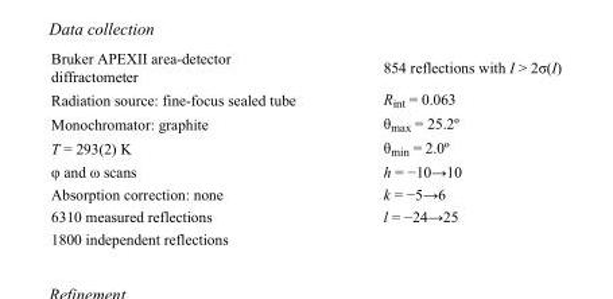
<table><tbody><tr><td>Bruker APEXII area-detector diffractometer</td><td>854 reflections with I &gt; 2σ(I)</td></tr><tr><td>Radiation source: fine-focus sealed tube</td><td>R<sub>int</sub> = 0.063</td></tr><tr><td>Monochromator: graphite</td><td>θ<sub>max</sub> = 25.2º</td></tr><tr><td>T = 293(2) K</td><td>θ<sub>min</sub> = 2.0º</td></tr><tr><td>φ and ω scans</td><td>h = −10→10</td></tr><tr><td>Absorption correction: none</td><td>k = −5→6</td></tr><tr><td>6310 measured reflections</td><td>l = −24→25</td></tr><tr><td>1800 independent reflections</td><td></td></tr></tbody></table>